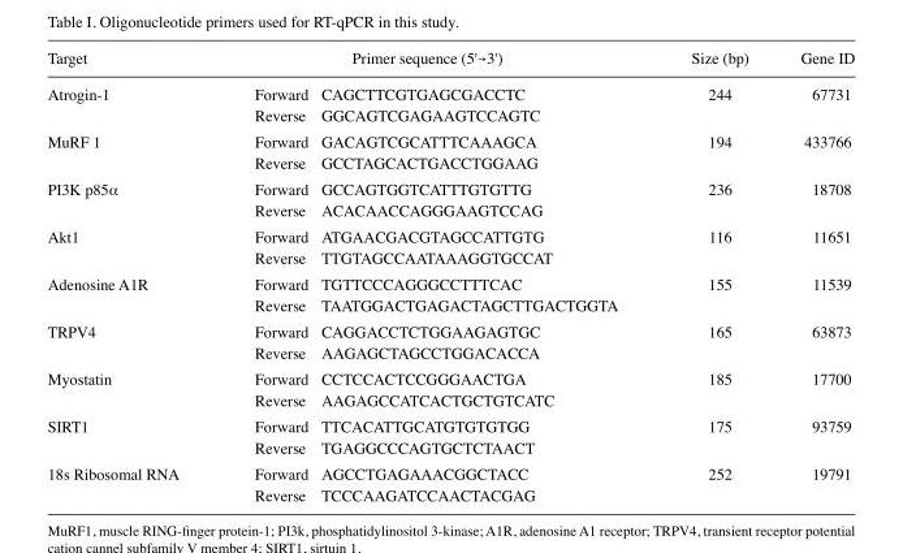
<table><thead><tr><td>Target</td><td></td><td>Primer sequence (5&#x27;→3&#x27;)</td><td>Size (bp)</td><td>Gene ID</td></tr></thead><tbody><tr><td rowspan="2">Atrogin-1</td><td>Forward</td><td>CAGCTTCGTGAGCGACCTC</td><td>244</td><td>67731</td></tr><tr><td>Reverse</td><td>GGCAGTCGAGAAGTCCAGTC</td><td></td><td></td></tr><tr><td rowspan="2">MuRF 1</td><td>Forward</td><td>GACAGTCGCATTTCAAAGCA</td><td>194</td><td>433766</td></tr><tr><td>Reverse</td><td>GCCTAGCACTGACCTGGAAG</td><td></td><td></td></tr><tr><td rowspan="2">PI3K p85α</td><td>Forward</td><td>GCCAGTGGTCATTTGTGTTG</td><td>236</td><td>18708</td></tr><tr><td>Reverse</td><td>ACACAACCAGGGAAGTCCAG</td><td></td><td></td></tr><tr><td rowspan="2">Akt1</td><td>Forward</td><td>ATGAACGACGTAGCCATTGTG</td><td>116</td><td>11651</td></tr><tr><td>Reverse</td><td>TTGTAGCCAATAAAGGTGCCAT</td><td></td><td></td></tr><tr><td rowspan="2">Adenosine A1R</td><td>Forward</td><td>TGTTCCCAGGGCCTTTCAC</td><td>155</td><td>11539</td></tr><tr><td>Reverse</td><td>TAATGGACTGAGACTAGCTTGACTGGTA</td><td></td><td></td></tr><tr><td rowspan="2">TRPV4</td><td>Forward</td><td>CAGGACCTCTGGAAGAGTGC</td><td>165</td><td>63873</td></tr><tr><td>Reverse</td><td>AAGAGCTAGCCTGGACACCA</td><td></td><td></td></tr><tr><td rowspan="2">Myostatin</td><td>Forward</td><td>CCTCCACTCCGGGAACTGA</td><td>185</td><td>17700</td></tr><tr><td>Reverse</td><td>AAGAGCCATCACTGCTGTCATC</td><td></td><td></td></tr><tr><td rowspan="2">SIRT1</td><td>Forward</td><td>TTCACATTGCATGTGTGTGG</td><td>175</td><td>93759</td></tr><tr><td>Reverse</td><td>TGAGGCCCAGTGCTCTAACT</td><td></td><td></td></tr><tr><td rowspan="2">18s Ribosomal RNA</td><td>Forward</td><td>AGCCTGAGAAACGGCTACC</td><td>252</td><td>19791</td></tr><tr><td>Reverse</td><td>TCCCAAGATCCAACTACGAG</td><td></td><td></td></tr></tbody></table>